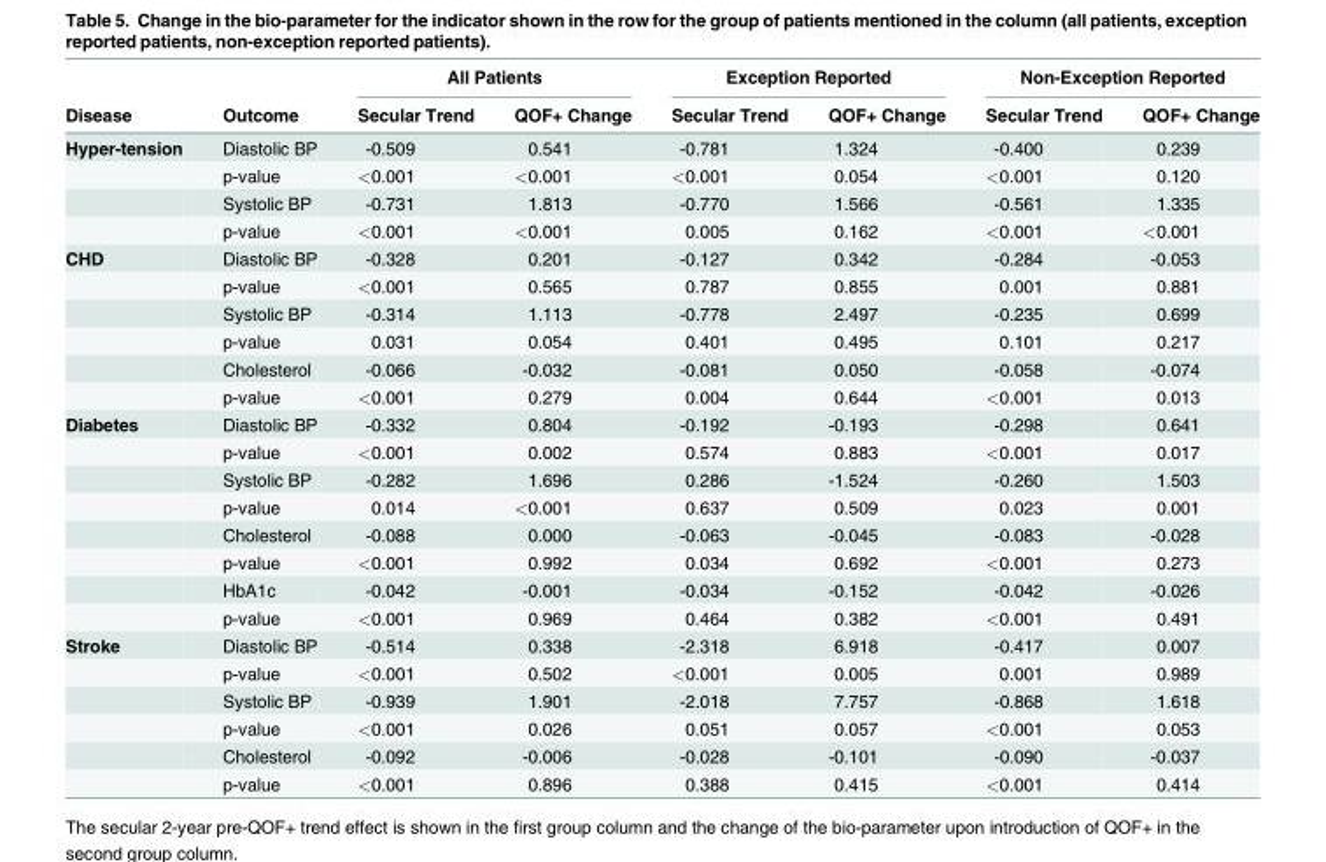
<table><thead><tr><td rowspan="2">Disease</td><td rowspan="2">Outcome</td><td colspan="2">All Patients</td><td colspan="2">Exception Reported</td><td colspan="2">Non-Exception Reported</td></tr><tr><td>Secular Trend</td><td>QOF+ Change</td><td>Secular Trend</td><td>QOF+ Change</td><td>Secular Trend</td><td>QOF+ Change</td></tr></thead><tbody><tr><td rowspan="4">Hyper-tension</td><td>Diastolic BP</td><td>-0.509</td><td>0.541</td><td>-0.781</td><td>1.324</td><td>-0.400</td><td>0.239</td></tr><tr><td>p-value</td><td>&lt;0.001</td><td>&lt;0.001</td><td>&lt;0.001</td><td>0.054</td><td>&lt;0.001</td><td>0.120</td></tr><tr><td>Systolic BP</td><td>-0.731</td><td>1.813</td><td>-0.770</td><td>1.566</td><td>-0.561</td><td>1.335</td></tr><tr><td>p-value</td><td>&lt;0.001</td><td>&lt;0.001</td><td>0.005</td><td>0.162</td><td>&lt;0.001</td><td>&lt;0.001</td></tr><tr><td rowspan="6">CHD</td><td>Diastolic BP</td><td>-0.328</td><td>0.201</td><td>-0.127</td><td>0.342</td><td>-0.284</td><td>-0.053</td></tr><tr><td>p-value</td><td>&lt;0.001</td><td>0.565</td><td>0.787</td><td>0.855</td><td>0.001</td><td>0.881</td></tr><tr><td>Systolic BP</td><td>-0.314</td><td>1.113</td><td>-0.778</td><td>2.497</td><td>-0.235</td><td>0.699</td></tr><tr><td>p-value</td><td>0.031</td><td>0.054</td><td>0.401</td><td>0.495</td><td>0.101</td><td>0.217</td></tr><tr><td>Cholesterol</td><td>-0.066</td><td>-0.032</td><td>-0.081</td><td>0.050</td><td>-0.058</td><td>-0.074</td></tr><tr><td>p-value</td><td>&lt;0.001</td><td>0.279</td><td>0.004</td><td>0.644</td><td>&lt;0.001</td><td>0.013</td></tr><tr><td rowspan="8">Diabetes</td><td>Diastolic BP</td><td>-0.332</td><td>0.804</td><td>-0.192</td><td>-0.193</td><td>-0.298</td><td>0.641</td></tr><tr><td>p-value</td><td>&lt;0.001</td><td>0.002</td><td>0.574</td><td>0.883</td><td>&lt;0.001</td><td>0.017</td></tr><tr><td>Systolic BP</td><td>-0.282</td><td>1.696</td><td>0.286</td><td>-1.524</td><td>-0.260</td><td>1.503</td></tr><tr><td>p-value</td><td>0.014</td><td>&lt;0.001</td><td>0.637</td><td>0.509</td><td>0.023</td><td>0.001</td></tr><tr><td>Cholesterol</td><td>-0.088</td><td>0.000</td><td>-0.063</td><td>-0.045</td><td>-0.083</td><td>-0.028</td></tr><tr><td>p-value</td><td>&lt;0.001</td><td>0.992</td><td>0.034</td><td>0.692</td><td>&lt;0.001</td><td>0.273</td></tr><tr><td>HbA1c</td><td>-0.042</td><td>-0.001</td><td>-0.034</td><td>-0.152</td><td>-0.042</td><td>-0.026</td></tr><tr><td>p-value</td><td>&lt;0.001</td><td>0.969</td><td>0.464</td><td>0.382</td><td>&lt;0.001</td><td>0.491</td></tr><tr><td rowspan="6">Stroke</td><td>Diastolic BP</td><td>-0.514</td><td>0.338</td><td>-2.318</td><td>6.918</td><td>-0.417</td><td>0.007</td></tr><tr><td>p-value</td><td>&lt;0.001</td><td>0.502</td><td>&lt;0.001</td><td>0.005</td><td>0.001</td><td>0.989</td></tr><tr><td>Systolic BP</td><td>-0.939</td><td>1.901</td><td>-2.018</td><td>7.757</td><td>-0.868</td><td>1.618</td></tr><tr><td>p-value</td><td>&lt;0.001</td><td>0.026</td><td>0.051</td><td>0.057</td><td>&lt;0.001</td><td>0.053</td></tr><tr><td>Cholesterol</td><td>-0.092</td><td>-0.006</td><td>-0.028</td><td>-0.101</td><td>-0.090</td><td>-0.037</td></tr><tr><td>p-value</td><td>&lt;0.001</td><td>0.896</td><td>0.388</td><td>0.415</td><td>&lt;0.001</td><td>0.414</td></tr></tbody></table>